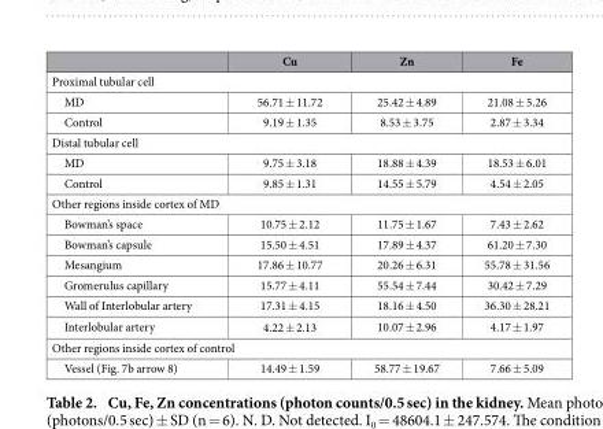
<table><thead><tr><td></td><td>Cu</td><td>Zn</td><td>Fe</td></tr></thead><tbody><tr><td colspan="4">Proximal tubular cell</td></tr><tr><td>MD</td><td>56.71 ± 11.72</td><td>25.42 ± 4.89</td><td>21.08 ± 5.26</td></tr><tr><td>Control</td><td>9.19 ± 1.35</td><td>8.53 ± 3.75</td><td>2.87 ± 3.34</td></tr><tr><td colspan="4">Distal tubular cell</td></tr><tr><td>MD</td><td>9.75 ± 3.18</td><td>18.88 ± 4.39</td><td>18.53 ± 6.01</td></tr><tr><td>Control</td><td>9.85 ± 1.31</td><td>14.55 ± 5.79</td><td>4.54 ± 2.05</td></tr><tr><td colspan="4">Other regions inside cortex of MD</td></tr><tr><td>Bowman’s space</td><td>10.75 ± 2.12</td><td>11.75 ± 1.67</td><td>7.43 ± 2.62</td></tr><tr><td>Bowman’s capsule</td><td>15.50 ± 4.51</td><td>17.89 ± 4.37</td><td>61.20 ± 7.30</td></tr><tr><td>Mesangium</td><td>17.86 ± 10.77</td><td>20.26 ± 6.31</td><td>55.78 ± 31.56</td></tr><tr><td>Gromerulus capillary</td><td>15.77 ± 4.11</td><td>55.54 ± 7.44</td><td>30.42 ± 7.29</td></tr><tr><td>Wall of Interlobular artery</td><td>17.31 ± 4.15</td><td>18.16 ± 4.50</td><td>36.30 ± 28.21</td></tr><tr><td>Interlobular artery</td><td>4.22 ± 2.13</td><td>10.07 ± 2.96</td><td>4.17 ± 1.97</td></tr><tr><td colspan="4">Other regions inside cortex of control</td></tr><tr><td>Vessel (Fig. 7b arrow 8)</td><td>14.49 ± 1.59</td><td>58.77 ± 19.67</td><td>7.66 ± 5.09</td></tr></tbody></table>